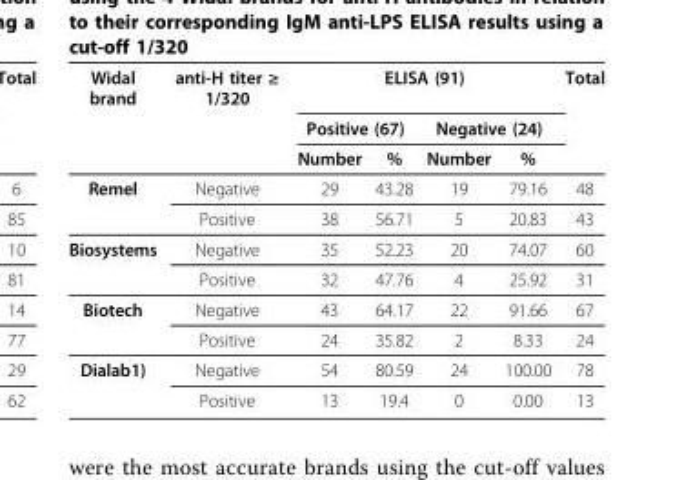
<table><thead><tr><td rowspan="3">Widal brand</td><td rowspan="3">anti-H titer ≥ 1/320</td><td colspan="4">ELISA (91)</td><td rowspan="3">Total</td></tr><tr><td colspan="2">Positive (67)</td><td colspan="2">Negative (24)</td></tr><tr><td>Number</td><td>%</td><td>Number</td><td>%</td></tr></thead><tbody><tr><td rowspan="2">Remel</td><td>Negative</td><td>29</td><td>43.28</td><td>19</td><td>79.16</td><td>48</td></tr><tr><td>Positive</td><td>38</td><td>56.71</td><td>5</td><td>20.83</td><td>43</td></tr><tr><td rowspan="2">Biosystems</td><td>Negative</td><td>35</td><td>52.23</td><td>20</td><td>74.07</td><td>60</td></tr><tr><td>Positive</td><td>32</td><td>47.76</td><td>4</td><td>25.92</td><td>31</td></tr><tr><td rowspan="2">Biotech</td><td>Negative</td><td>43</td><td>64.17</td><td>22</td><td>91.66</td><td>67</td></tr><tr><td>Positive</td><td>24</td><td>35.82</td><td>2</td><td>8.33</td><td>24</td></tr><tr><td rowspan="2">Dialab1)</td><td>Negative</td><td>54</td><td>80.59</td><td>24</td><td>100.00</td><td>78</td></tr><tr><td>Positive</td><td>13</td><td>19.4</td><td>0</td><td>0.00</td><td>13</td></tr></tbody></table>